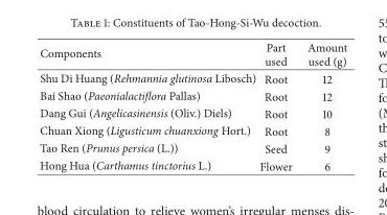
<table><thead><tr><td>Components</td><td>Part used</td><td>Amount used (g)</td></tr></thead><tbody><tr><td>Shu Di Huang (Rehmannia glutinosa Libosch)</td><td>Root</td><td>12</td></tr><tr><td>Bai Shao (Paeonialactiflora Pallas)</td><td>Root</td><td>12</td></tr><tr><td>Dang Gui (Angelicasinensis (Oliv.) Diels)</td><td>Root</td><td>10</td></tr><tr><td>Chuan Xiong (Ligusticum chuanxiong Hort.)</td><td>Root</td><td>8</td></tr><tr><td>Tao Ren (Prunus persica (L.))</td><td>Seed</td><td>9</td></tr><tr><td>Hong Hua (Carthamus tinctorius L.)</td><td>Flower</td><td>6</td></tr></tbody></table>